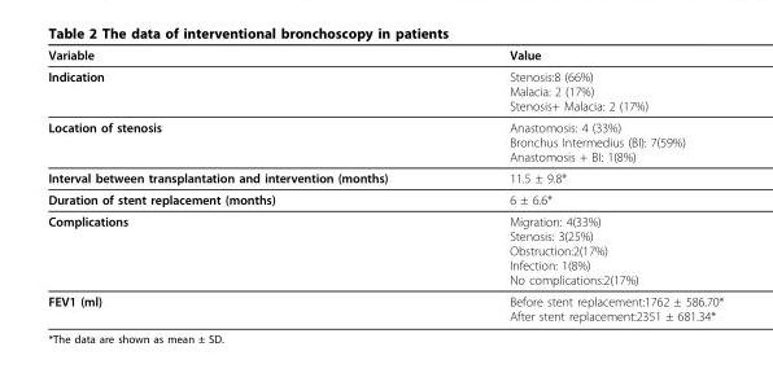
<table><thead><tr><td>Variable</td><td>Value</td></tr></thead><tbody><tr><td>Indication</td><td>Stenosis:8 (66%) Malacia: 2 (17%) Stenosis+ Malacia: 2 (17%)</td></tr><tr><td>Location of stenosis</td><td>Anastomosis: 4 (33%) Bronchus Intermedius (BI): 7(59%) Anastomosis + BI: 1(8%)</td></tr><tr><td>Interval between transplantation and intervention (months)</td><td>11.5 ± 9.8*</td></tr><tr><td>Duration of stent replacement (months)</td><td>6 ± 6.6*</td></tr><tr><td>Complications</td><td>Migration: 4(33%) Stenosis: 3(25%) Obstruction:2(17%) Infection: 1(8%) No complications:2(17%)</td></tr><tr><td>FEV1 (ml)</td><td>Before stent replacement:1762 ± 586.70* After stent replacement:2351 ± 681.34*</td></tr></tbody></table>